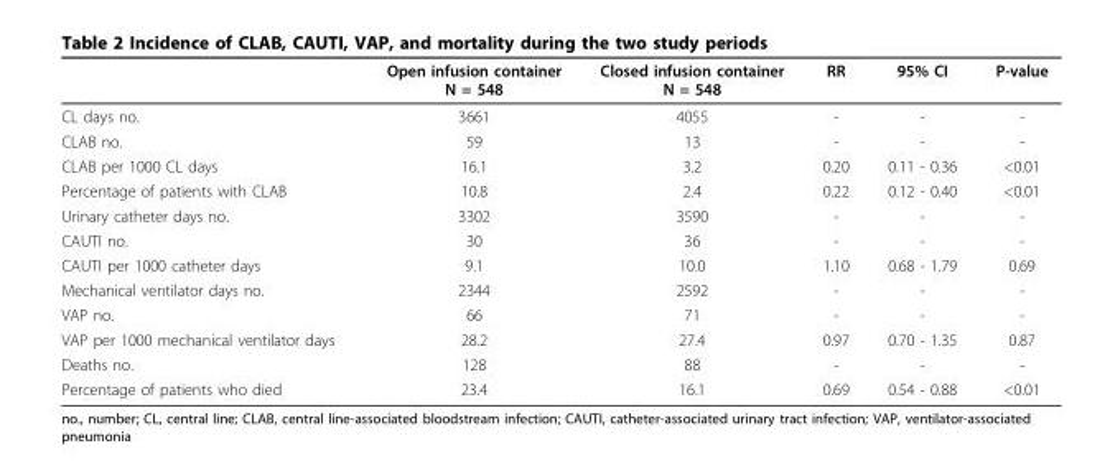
<table><thead><tr><td></td><td>Open infusion container N = 548</td><td>Closed infusion container N = 548</td><td>RR</td><td>95% CI</td><td>P-value</td></tr></thead><tbody><tr><td>CL days no.</td><td>3661</td><td>4055</td><td>-</td><td>-</td><td>-</td></tr><tr><td>CLAB no.</td><td>59</td><td>13</td><td>-</td><td>-</td><td>-</td></tr><tr><td>CLAB per 1000 CL days</td><td>16.1</td><td>3.2</td><td>0.20</td><td>0.11 - 0.36</td><td>&lt;0.01</td></tr><tr><td>Percentage of patients with CLAB</td><td>10.8</td><td>2.4</td><td>0.22</td><td>0.12 - 0.40</td><td>&lt;0.01</td></tr><tr><td>Urinary catheter days no.</td><td>3302</td><td>3590</td><td>-</td><td>-</td><td>-</td></tr><tr><td>CAUTI no.</td><td>30</td><td>36</td><td>-</td><td>-</td><td>-</td></tr><tr><td>CAUTI per 1000 catheter days</td><td>9.1</td><td>10.0</td><td>1.10</td><td>0.68 - 1.79</td><td>0.69</td></tr><tr><td>Mechanical ventilator days no.</td><td>2344</td><td>2592</td><td>-</td><td>-</td><td>-</td></tr><tr><td>VAP no.</td><td>66</td><td>71</td><td>-</td><td>-</td><td>-</td></tr><tr><td>VAP per 1000 mechanical ventilator days</td><td>28.2</td><td>27.4</td><td>0.97</td><td>0.70 - 1.35</td><td>0.87</td></tr><tr><td>Deaths no.</td><td>128</td><td>88</td><td>-</td><td>-</td><td>-</td></tr><tr><td>Percentage of patients who died</td><td>23.4</td><td>16.1</td><td>0.69</td><td>0.54 - 0.88</td><td>&lt;0.01</td></tr></tbody></table>